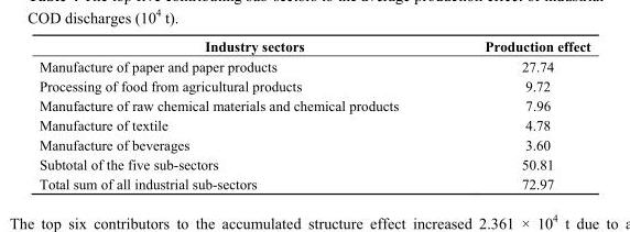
<table><thead><tr><td>Industry sectors</td><td>Production effect</td></tr></thead><tbody><tr><td>Manufacture of paper and paper products</td><td>27.74</td></tr><tr><td>Processing of food from agricultural products</td><td>9.72</td></tr><tr><td>Manufacture of raw chemical materials and chemical products</td><td>7.96</td></tr><tr><td>Manufacture of textile</td><td>4.78</td></tr><tr><td>Manufacture of beverages</td><td>3.60</td></tr><tr><td>Subtotal of the five sub-sectors</td><td>50.81</td></tr><tr><td>Total sum of all industrial sub-sectors</td><td>72.97</td></tr></tbody></table>